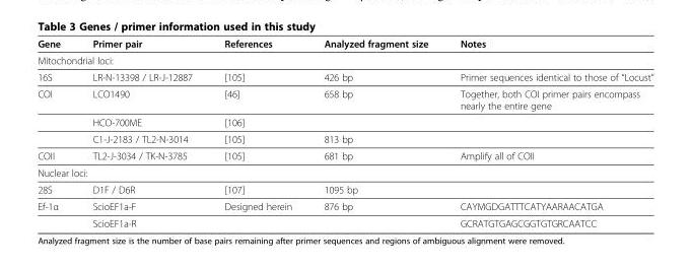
<table><thead><tr><td>Gene</td><td>Primer pair</td><td>References</td><td>Analyzed fragment size</td><td>Notes</td></tr></thead><tbody><tr><td colspan="5">Mitochondrial loci:</td></tr><tr><td>16S</td><td>LR-N-13398 / LR-J-12887</td><td>[105]</td><td>426 bp</td><td>Primer sequences identical to those of “Locust”</td></tr><tr><td rowspan="3">COI</td><td>LCO1490</td><td>[46]</td><td>658 bp</td><td>Together, both COI primer pairs encompass nearly the entire gene</td></tr><tr><td>HCO-700ME</td><td>[106]</td><td></td><td></td></tr><tr><td>C1-J-2183 / TL2-N-3014</td><td>[105]</td><td>813 bp</td><td></td></tr><tr><td>COII</td><td>TL2-J-3034 / TK-N-3785</td><td>[105]</td><td>681 bp</td><td>Amplify all of COII</td></tr><tr><td colspan="5">Nuclear loci:</td></tr><tr><td>28S</td><td>D1F / D6R</td><td>[107]</td><td>1095 bp</td><td></td></tr><tr><td rowspan="2">Ef-1α</td><td>ScioEF1a-F</td><td>Designed herein</td><td>876 bp</td><td>CAYMGDGATTTCATYAARAACATGA</td></tr><tr><td>ScioEF1a-R</td><td></td><td></td><td>GCRATGTGAGCGGTGTGRCAATCC</td></tr></tbody></table>